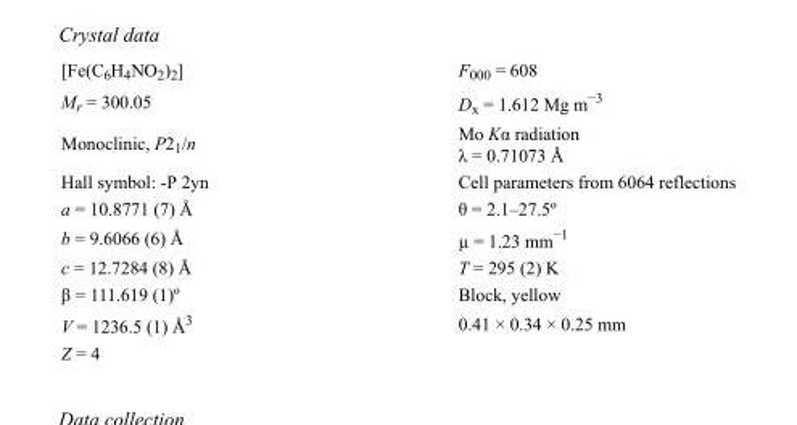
<table><tbody><tr><td>[Fe(C<sub>6</sub>H<sub>4</sub>NO<sub>2</sub>)<sub>2</sub>]</td><td>F<sub>000</sub> = 608</td></tr><tr><td>M<sub>r</sub> = 300.05</td><td>D<sub>x</sub> = 1.612 Mg m<sup>−3</sup></td></tr><tr><td>Monoclinic, P2<sub>1</sub>/n</td><td>Mo Kα radiation λ = 0.71073 Å</td></tr><tr><td>Hall symbol: -P 2yn</td><td>Cell parameters from 6064 reflections</td></tr><tr><td>a = 10.8771 (7) Å</td><td>θ = 2.1–27.5º</td></tr><tr><td>b = 9.6066 (6) Å</td><td>µ = 1.23 mm<sup>−1</sup></td></tr><tr><td>c = 12.7284 (8) Å</td><td>T = 295 (2) K</td></tr><tr><td>β = 111.619 (1)º</td><td>Block, yellow</td></tr><tr><td>V = 1236.5 (1) Å<sup>3</sup></td><td>0.41 × 0.34 × 0.25 mm</td></tr><tr><td>Z = 4</td><td></td></tr></tbody></table>